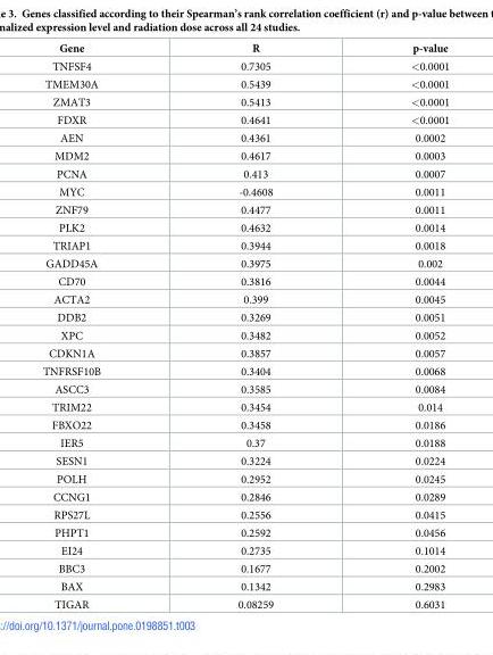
<table><thead><tr><td>Gene</td><td>R</td><td>p-value</td></tr></thead><tbody><tr><td>TNFSF4</td><td>0.7305</td><td>&lt;0.0001</td></tr><tr><td>TMEM30A</td><td>0.5439</td><td>&lt;0.0001</td></tr><tr><td>ZMAT3</td><td>0.5413</td><td>&lt;0.0001</td></tr><tr><td>FDXR</td><td>0.4641</td><td>&lt;0.0001</td></tr><tr><td>AEN</td><td>0.4361</td><td>0.0002</td></tr><tr><td>MDM2</td><td>0.4617</td><td>0.0003</td></tr><tr><td>PCNA</td><td>0.413</td><td>0.0007</td></tr><tr><td>MYC</td><td>-0.4608</td><td>0.0011</td></tr><tr><td>ZNF79</td><td>0.4477</td><td>0.0011</td></tr><tr><td>PLK2</td><td>0.4632</td><td>0.0014</td></tr><tr><td>TRIAP1</td><td>0.3944</td><td>0.0018</td></tr><tr><td>GADD45A</td><td>0.3975</td><td>0.002</td></tr><tr><td>CD70</td><td>0.3816</td><td>0.0044</td></tr><tr><td>ACTA2</td><td>0.399</td><td>0.0045</td></tr><tr><td>DDB2</td><td>0.3269</td><td>0.0051</td></tr><tr><td>XPC</td><td>0.3482</td><td>0.0052</td></tr><tr><td>CDKN1A</td><td>0.3857</td><td>0.0057</td></tr><tr><td>TNFRSF10B</td><td>0.3404</td><td>0.0068</td></tr><tr><td>ASCC3</td><td>0.3585</td><td>0.0084</td></tr><tr><td>TRIM22</td><td>0.3454</td><td>0.014</td></tr><tr><td>FBXO22</td><td>0.3458</td><td>0.0186</td></tr><tr><td>IER5</td><td>0.37</td><td>0.0188</td></tr><tr><td>SESN1</td><td>0.3224</td><td>0.0224</td></tr><tr><td>POLH</td><td>0.2952</td><td>0.0245</td></tr><tr><td>CCNG1</td><td>0.2846</td><td>0.0289</td></tr><tr><td>RPS27L</td><td>0.2556</td><td>0.0415</td></tr><tr><td>PHPT1</td><td>0.2592</td><td>0.0456</td></tr><tr><td>EI24</td><td>0.2735</td><td>0.1014</td></tr><tr><td>BBC3</td><td>0.1677</td><td>0.2002</td></tr><tr><td>BAX</td><td>0.1342</td><td>0.2983</td></tr><tr><td>TIGAR</td><td>0.08259</td><td>0.6031</td></tr></tbody></table>